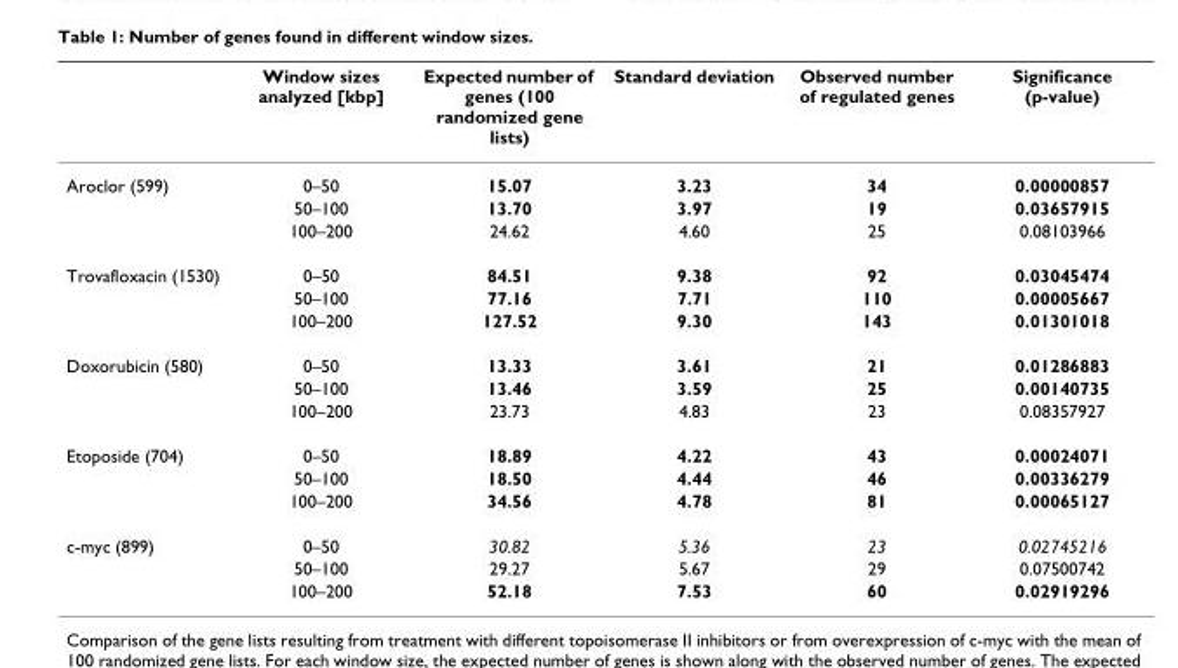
<table><thead><tr><td></td><td>Window sizes analyzed [kbp]</td><td>Expected number of genes (100 randomized gene lists)</td><td>Standard deviation</td><td>Observed number of regulated genes</td><td>Significance (p-value)</td></tr></thead><tbody><tr><td rowspan="3">Aroclor (599)</td><td>0–50</td><td>15.07</td><td>3.23</td><td>34</td><td>0.00000857</td></tr><tr><td>50–100</td><td>13.70</td><td>3.97</td><td>19</td><td>0.03657915</td></tr><tr><td>100–200</td><td>24.62</td><td>4.60</td><td>25</td><td>0.08103966</td></tr><tr><td rowspan="3">Trovafloxacin (1530)</td><td>0–50</td><td>84.51</td><td>9.38</td><td>92</td><td>0.03045474</td></tr><tr><td>50–100</td><td>77.16</td><td>7.71</td><td>110</td><td>0.00005667</td></tr><tr><td>100–200</td><td>127.52</td><td>9.30</td><td>143</td><td>0.01301018</td></tr><tr><td rowspan="3">Doxorubicin (580)</td><td>0–50</td><td>13.33</td><td>3.61</td><td>21</td><td>0.01286883</td></tr><tr><td>50–100</td><td>13.46</td><td>3.59</td><td>25</td><td>0.00140735</td></tr><tr><td>100–200</td><td>23.73</td><td>4.83</td><td>23</td><td>0.08357927</td></tr><tr><td rowspan="3">Etoposide (704)</td><td>0–50</td><td>18.89</td><td>4.22</td><td>43</td><td>0.00024071</td></tr><tr><td>50–100</td><td>18.50</td><td>4.44</td><td>46</td><td>0.00336279</td></tr><tr><td>100–200</td><td>34.56</td><td>4.78</td><td>81</td><td>0.00065127</td></tr><tr><td rowspan="3">c-myc (899)</td><td>0–50</td><td>30.82</td><td>5.36</td><td>23</td><td>0.02745216</td></tr><tr><td>50–100</td><td>29.27</td><td>5.67</td><td>29</td><td>0.07500742</td></tr><tr><td>100–200</td><td>52.18</td><td>7.53</td><td>60</td><td>0.02919296</td></tr></tbody></table>